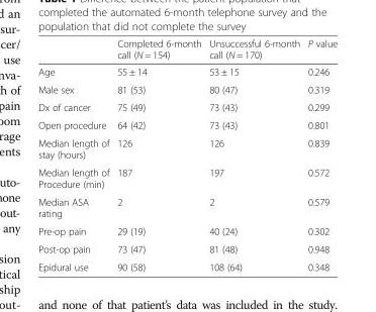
<table><thead><tr><td></td><td>Completed 6-month call (N = 154)</td><td>Unsuccessful 6-month call (N = 170)</td><td>P value</td></tr></thead><tbody><tr><td>Age</td><td>55 ± 14</td><td>53 ± 15</td><td>0.246</td></tr><tr><td>Male sex</td><td>81 (53)</td><td>80 (47)</td><td>0.319</td></tr><tr><td>Dx of cancer</td><td>75 (49)</td><td>73 (43)</td><td>0.299</td></tr><tr><td>Open procedure</td><td>64 (42)</td><td>73 (43)</td><td>0.801</td></tr><tr><td>Median length of stay (hours)</td><td>126</td><td>126</td><td>0.839</td></tr><tr><td>Median length of Procedure (min)</td><td>187</td><td>197</td><td>0.572</td></tr><tr><td>Median ASA rating</td><td>2</td><td>2</td><td>0.579</td></tr><tr><td>Pre-op pain</td><td>29 (19)</td><td>40 (24)</td><td>0.302</td></tr><tr><td>Post-op pain</td><td>73 (47)</td><td>81 (48)</td><td>0.948</td></tr><tr><td>Epidural use</td><td>90 (58)</td><td>108 (64)</td><td>0.348</td></tr></tbody></table>